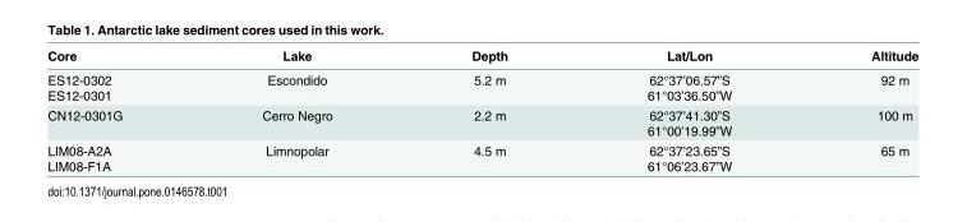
<table><thead><tr><td>Core</td><td>Lake</td><td>Depth</td><td>Lat/Lon</td><td>Altitude</td></tr></thead><tbody><tr><td>ES12-0302 ES12-0301</td><td>Escondido</td><td>5.2 m</td><td>62°37’06.57”S 61°03’36.50”W</td><td>92 m</td></tr><tr><td>CN12-0301G</td><td>Cerro Negro</td><td>2.2 m</td><td>62°37’41.30”S 61°00’19.99”W</td><td>100 m</td></tr><tr><td>LIM08-A2A LIM08-F1A</td><td>Limnopolar</td><td>4.5 m</td><td>62°37’23.65”S 61°06’23.67”W</td><td>65 m</td></tr></tbody></table>